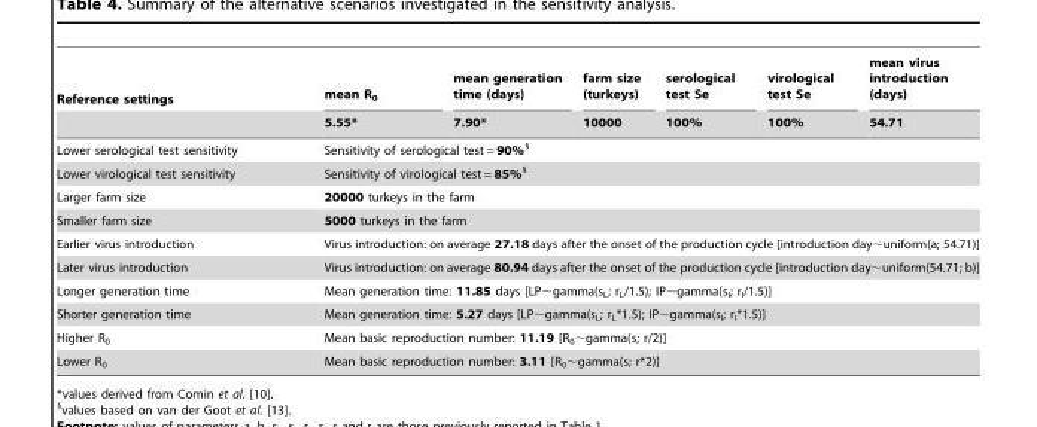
<table><thead><tr><td rowspan="2">Reference settings</td><td rowspan="2">mean R<sub>0</sub> 5.55*</td><td rowspan="2">mean generation time (days) 7.90*</td><td rowspan="2">farm size (turkeys) 10000</td><td rowspan="2">serological test Se 100%</td><td rowspan="2">virological test Se 100%</td><td rowspan="2">mean virus introduction (days) 54.71</td></tr><tr></tr></thead><tbody><tr><td>Lower serological test sensitivity</td><td colspan="6">Sensitivity of serological test = 90%§</td></tr><tr><td>Lower virological test sensitivity</td><td colspan="6">Sensitivity of virological test = 85%§</td></tr><tr><td>Larger farm size</td><td colspan="6">20000 turkeys in the farm</td></tr><tr><td>Smaller farm size</td><td colspan="6">5000 turkeys in the farm</td></tr><tr><td>Earlier virus introduction</td><td colspan="6">Virus introduction: on average 27.18 days after the onset of the production cycle [introduction day∼uniform(a; 54.71)]</td></tr><tr><td>Later virus introduction</td><td colspan="6">Virus introduction: on average 80.94 days after the onset of the production cycle [introduction day∼uniform(54.71; b)]</td></tr><tr><td>Longer generation time</td><td colspan="6">Mean generation time: 11.85 days [LP∼gamma(s<sub>L</sub>; r<sub>L</sub>/1.5); IP∼gamma(s<sub>I</sub>; r<sub>I</sub>/1.5)]</td></tr><tr><td>Shorter generation time</td><td colspan="6">Mean generation time: 5.27 days [LP∼gamma(s<sub>L</sub>; r<sub>L</sub>*1.5); IP∼gamma(s<sub>I</sub>; r<sub>I</sub>*1.5)]</td></tr><tr><td>Higher R<sub>0</sub></td><td colspan="6">Mean basic reproduction number: 11.19 [R<sub>0</sub>∼gamma(s; r/2)]</td></tr><tr><td>Lower R<sub>0</sub></td><td colspan="6">Mean basic reproduction number: 3.11 [R<sub>0</sub>∼gamma(s; r*2)]</td></tr></tbody></table>